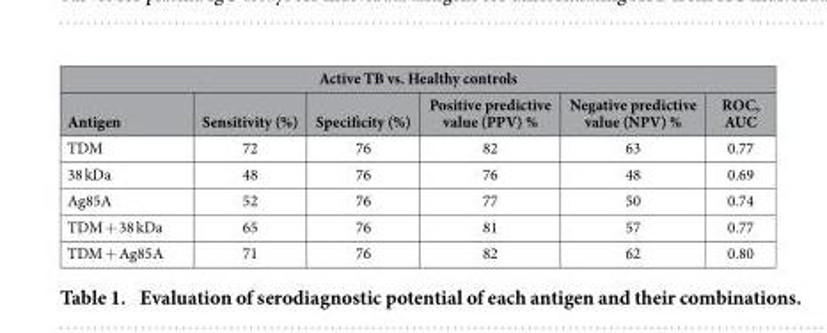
<table><thead><tr><td colspan="6">Active TB vs. Healthy controls</td></tr><tr><td>Antigen</td><td>Sensitivity (%)</td><td>Specificity (%)</td><td>Positive predictive value (PPV) %</td><td>Negative predictive value (NPV) %</td><td>ROC, AUC</td></tr></thead><tbody><tr><td>TDM</td><td>72</td><td>76</td><td>82</td><td>63</td><td>0.77</td></tr><tr><td>38 kDa</td><td>48</td><td>76</td><td>76</td><td>48</td><td>0.69</td></tr><tr><td>Ag85A</td><td>52</td><td>76</td><td>77</td><td>50</td><td>0.74</td></tr><tr><td>TDM + 38 kDa</td><td>65</td><td>76</td><td>81</td><td>57</td><td>0.77</td></tr><tr><td>TDM + Ag85A</td><td>71</td><td>76</td><td>82</td><td>62</td><td>0.80</td></tr></tbody></table>